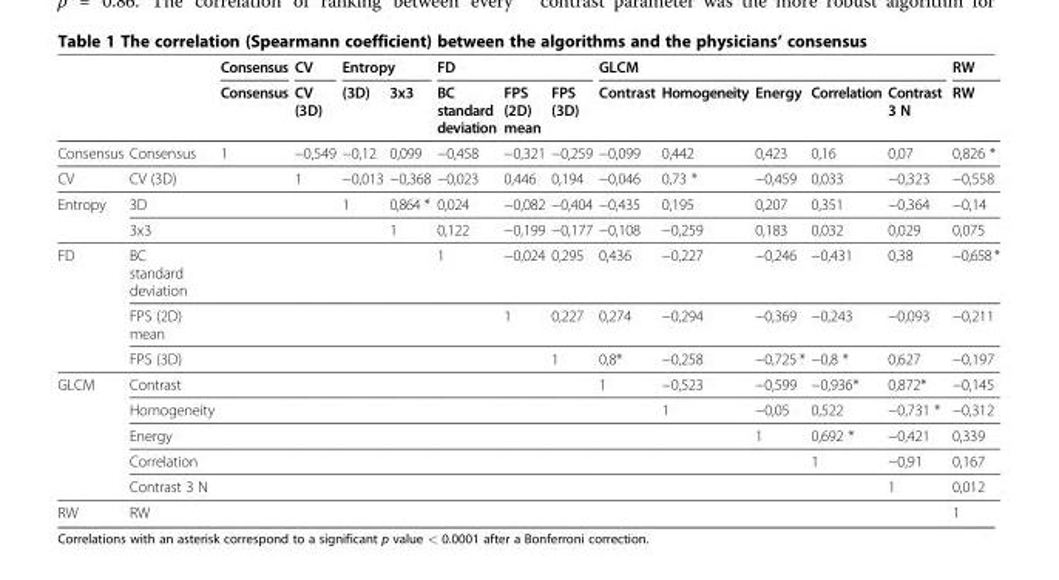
<table><thead><tr><td rowspan="2"></td><td rowspan="2"></td><td rowspan="2">Consensus Consensus</td><td rowspan="2">CV CV (3D)</td><td colspan="2">Entropy</td><td colspan="3">FD</td><td colspan="5">GLCM</td><td rowspan="2">RW RW</td></tr><tr><td>(3D)</td><td>3x3</td><td>BC standard deviation</td><td>FPS (2D) mean</td><td>FPS (3D)</td><td>Contrast</td><td>Homogeneity</td><td>Energy</td><td>Correlation</td><td>Contrast 3 N</td></tr></thead><tbody><tr><td>Consensus</td><td>Consensus</td><td>1</td><td>−0,549</td><td>−0,12</td><td>0,099</td><td>−0,458</td><td>−0,321</td><td>−0,259</td><td>−0,099</td><td>0,442</td><td>0,423</td><td>0,16</td><td>0,07</td><td>0,826 *</td></tr><tr><td>CV</td><td>CV (3D)</td><td></td><td>1</td><td>−0,013</td><td>−0,368</td><td>−0,023</td><td>0,446</td><td>0,194</td><td>−0,046</td><td>0,73 *</td><td>−0,459</td><td>0,033</td><td>−0,323</td><td>−0,558</td></tr><tr><td rowspan="2">Entropy</td><td>3D</td><td></td><td></td><td>1</td><td>0,864 *</td><td>0,024</td><td>−0,082</td><td>−0,404</td><td>−0,435</td><td>0,195</td><td>0,207</td><td>0,351</td><td>−0,364</td><td>−0,14</td></tr><tr><td>3x3</td><td></td><td></td><td></td><td>1</td><td>0,122</td><td>−0,199</td><td>−0,177</td><td>−0,108</td><td>−0,259</td><td>0,183</td><td>0,032</td><td>0,029</td><td>0,075</td></tr><tr><td rowspan="3">FD</td><td>BC standard deviation</td><td></td><td></td><td></td><td></td><td>1</td><td>−0,024</td><td>0,295</td><td>0,436</td><td>−0,227</td><td>−0,246</td><td>−0,431</td><td>0,38</td><td>−0,658*</td></tr><tr><td>FPS (2D) mean</td><td></td><td></td><td></td><td></td><td></td><td>1</td><td>0,227</td><td>0,274</td><td>−0,294</td><td>−0,369</td><td>−0,243</td><td>−0,093</td><td>−0,211</td></tr><tr><td>FPS (3D)</td><td></td><td></td><td></td><td></td><td></td><td></td><td>1</td><td>0,8*</td><td>−0,258</td><td>−0,725 *</td><td>−0,8 *</td><td>0,627</td><td>−0,197</td></tr><tr><td rowspan="5">GLCM</td><td>Contrast</td><td></td><td></td><td></td><td></td><td></td><td></td><td></td><td>1</td><td>−0,523</td><td>−0,599</td><td>−0,936*</td><td>0,872*</td><td>−0,145</td></tr><tr><td>Homogeneity</td><td></td><td></td><td></td><td></td><td></td><td></td><td></td><td></td><td>1</td><td>−0,05</td><td>0,522</td><td>−0,731 *</td><td>−0,312</td></tr><tr><td>Energy</td><td></td><td></td><td></td><td></td><td></td><td></td><td></td><td></td><td></td><td>1</td><td>0,692 *</td><td>−0,421</td><td>0,339</td></tr><tr><td>Correlation</td><td></td><td></td><td></td><td></td><td></td><td></td><td></td><td></td><td></td><td></td><td>1</td><td>−0,91</td><td>0,167</td></tr><tr><td>Contrast 3 N</td><td></td><td></td><td></td><td></td><td></td><td></td><td></td><td></td><td></td><td></td><td></td><td>1</td><td>0,012</td></tr><tr><td>RW</td><td>RW</td><td></td><td></td><td></td><td></td><td></td><td></td><td></td><td></td><td></td><td></td><td></td><td></td><td>1</td></tr></tbody></table>